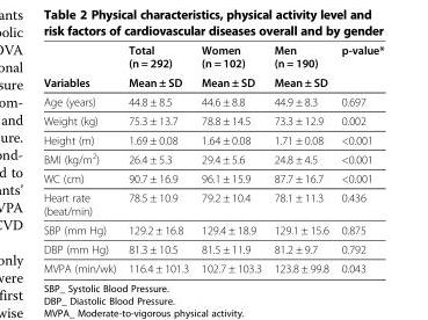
<table><thead><tr><td rowspan="2">Variables</td><td rowspan="2">Total (n = 292) Mean ± SD</td><td rowspan="2">Women (n = 102) Mean ± SD</td><td rowspan="2">Men (n = 190) Mean ± SD</td><td rowspan="2">p-value*</td></tr><tr></tr></thead><tbody><tr><td>Age (years)</td><td>44.8 ± 8.5</td><td>44.6 ± 8.8</td><td>44.9 ± 8.3</td><td>0.697</td></tr><tr><td>Weight (kg)</td><td>75.3 ± 13.7</td><td>78.8 ± 14.5</td><td>73.3 ± 12.9</td><td>0.002</td></tr><tr><td>Height (m)</td><td>1.69 ± 0.08</td><td>1.64 ± 0.08</td><td>1.71 ± 0.08</td><td>&lt;0.001</td></tr><tr><td>BMI (kg/m<sup>2</sup>)</td><td>26.4 ± 5.3</td><td>29.4 ± 5.6</td><td>24.8 ± 4.5</td><td>&lt;0.001</td></tr><tr><td>WC (cm)</td><td>90.7 ± 16.9</td><td>96.1 ± 15.9</td><td>87.7 ± 16.7</td><td>&lt;0.001</td></tr><tr><td>Heart rate (beat/min)</td><td>78.5 ± 10.9</td><td>79.2 ± 10.4</td><td>78.1 ± 11.3</td><td>0.436</td></tr><tr><td>SBP (mm Hg)</td><td>129.2 ± 16.8</td><td>129.4 ± 18.9</td><td>129.1 ± 15.6</td><td>0.875</td></tr><tr><td>DBP (mm Hg)</td><td>81.3 ± 10.5</td><td>81.5 ± 11.9</td><td>81.2 ± 9.7</td><td>0.792</td></tr><tr><td>MVPA (min/wk)</td><td>116.4 ± 101.3</td><td>102.7 ± 103.3</td><td>123.8 ± 99.8</td><td>0.043</td></tr></tbody></table>